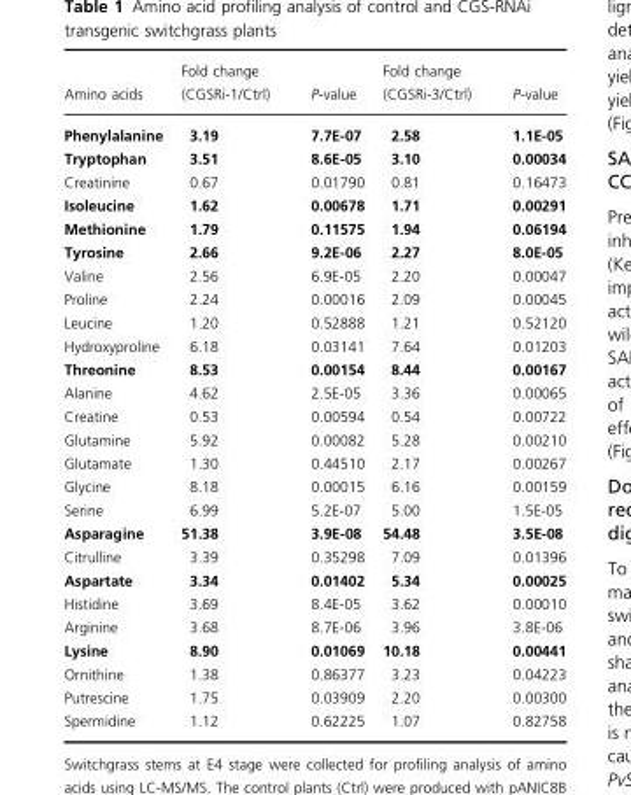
<table><thead><tr><td>Amino acids</td><td>Fold change (CGSRi-1/Ctrl)</td><td>P-value</td><td>Fold change (CGSRi-3/Ctrl)</td><td>P-value</td></tr></thead><tbody><tr><td>Phenylalanine</td><td>3.19</td><td>7.7E-07</td><td>2.58</td><td>1.1E-05</td></tr><tr><td>Tryptophan</td><td>3.51</td><td>8.6E-05</td><td>3.10</td><td>0.00034</td></tr><tr><td>Creatinine</td><td>0.67</td><td>0.01790</td><td>0.81</td><td>0.16473</td></tr><tr><td>Isoleucine</td><td>1.62</td><td>0.00678</td><td>1.71</td><td>0.00291</td></tr><tr><td>Methionine</td><td>1.79</td><td>0.11575</td><td>1.94</td><td>0.06194</td></tr><tr><td>Tyrosine</td><td>2.66</td><td>9.2E-06</td><td>2.27</td><td>8.0E-05</td></tr><tr><td>Valine</td><td>2.56</td><td>6.9E-05</td><td>2.20</td><td>0.00047</td></tr><tr><td>Proline</td><td>2.24</td><td>0.00016</td><td>2.09</td><td>0.00045</td></tr><tr><td>Leucine</td><td>1.20</td><td>0.52888</td><td>1.21</td><td>0.52120</td></tr><tr><td>Hydroxyproline</td><td>6.18</td><td>0.03141</td><td>7.64</td><td>0.01203</td></tr><tr><td>Threonine</td><td>8.53</td><td>0.00154</td><td>8.44</td><td>0.00167</td></tr><tr><td>Alanine</td><td>4.62</td><td>2.5E-05</td><td>3.36</td><td>0.00065</td></tr><tr><td>Creatine</td><td>0.53</td><td>0.00594</td><td>0.54</td><td>0.00722</td></tr><tr><td>Glutamine</td><td>5.92</td><td>0.00082</td><td>5.28</td><td>0.00210</td></tr><tr><td>Glutamate</td><td>1.30</td><td>0.44510</td><td>2.17</td><td>0.00267</td></tr><tr><td>Glycine</td><td>8.18</td><td>0.00015</td><td>6.16</td><td>0.00159</td></tr><tr><td>Serine</td><td>6.99</td><td>5.2E-07</td><td>5.00</td><td>1.5E-05</td></tr><tr><td>Asparagine</td><td>51.38</td><td>3.9E-08</td><td>54.48</td><td>3.5E-08</td></tr><tr><td>Citrulline</td><td>3.39</td><td>0.35298</td><td>7.09</td><td>0.01396</td></tr><tr><td>Aspartate</td><td>3.34</td><td>0.01402</td><td>5.34</td><td>0.00025</td></tr><tr><td>Histidine</td><td>3.69</td><td>8.4E-05</td><td>3.62</td><td>0.00010</td></tr><tr><td>Arginine</td><td>3.68</td><td>8.7E-06</td><td>3.96</td><td>3.8E-06</td></tr><tr><td>Lysine</td><td>8.90</td><td>0.01069</td><td>10.18</td><td>0.00441</td></tr><tr><td>Ornithine</td><td>1.38</td><td>0.86377</td><td>3.23</td><td>0.04223</td></tr><tr><td>Putrescine</td><td>1.75</td><td>0.03909</td><td>2.20</td><td>0.00300</td></tr><tr><td>Spermidine</td><td>1.12</td><td>0.62225</td><td>1.07</td><td>0.82758</td></tr></tbody></table>